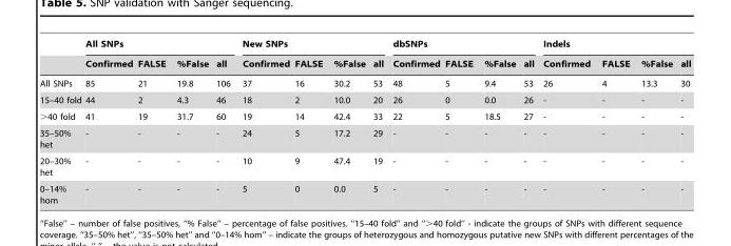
<table><thead><tr><td rowspan="2"></td><td colspan="4">All SNPs</td><td colspan="4">New SNPs</td><td colspan="4">dbSNPs</td><td colspan="4">Indels</td></tr><tr><td>Confirmed</td><td>FALSE</td><td>%False</td><td>all</td><td>Confirmed</td><td>FALSE</td><td>%False</td><td>all</td><td>Confirmed</td><td>FALSE</td><td>%False</td><td>all</td><td>Confirmed</td><td>FALSE</td><td>%False</td><td>all</td></tr></thead><tbody><tr><td>All SNPs</td><td>85</td><td>21</td><td>19.8</td><td>106</td><td>37</td><td>16</td><td>30.2</td><td>53</td><td>48</td><td>5</td><td>9.4</td><td>53</td><td>26</td><td>4</td><td>13.3</td><td>30</td></tr><tr><td>15–40 fold</td><td>44</td><td>2</td><td>4.3</td><td>46</td><td>18</td><td>2</td><td>10.0</td><td>20</td><td>26</td><td>0</td><td>0.0</td><td>26</td><td>-</td><td>-</td><td>-</td><td>-</td></tr><tr><td>&gt;40 fold</td><td>41</td><td>19</td><td>31.7</td><td>60</td><td>19</td><td>14</td><td>42.4</td><td>33</td><td>22</td><td>5</td><td>18.5</td><td>27</td><td>-</td><td>-</td><td>-</td><td>-</td></tr><tr><td>35–50% het</td><td>-</td><td>-</td><td>-</td><td>-</td><td>24</td><td>5</td><td>17.2</td><td>29</td><td>-</td><td>-</td><td>-</td><td>-</td><td>-</td><td>-</td><td>-</td><td>-</td></tr><tr><td>20–30% het</td><td>-</td><td>-</td><td>-</td><td>-</td><td>10</td><td>9</td><td>47.4</td><td>19</td><td>-</td><td>-</td><td>-</td><td>-</td><td>-</td><td>-</td><td>-</td><td>-</td></tr><tr><td>0–14% hom</td><td>-</td><td>-</td><td>-</td><td>-</td><td>5</td><td>0</td><td>0.0</td><td>5</td><td>-</td><td>-</td><td>-</td><td>-</td><td>-</td><td>-</td><td>-</td><td>-</td></tr></tbody></table>